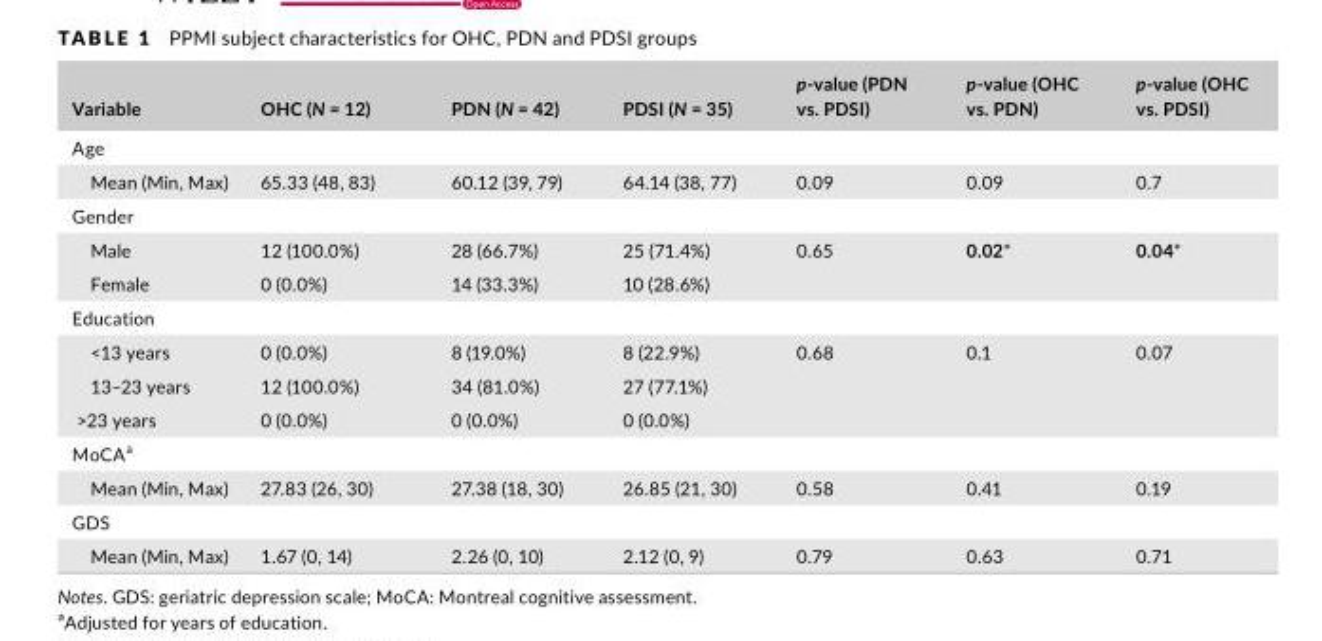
<table><thead><tr><td>Variable</td><td>OHC (N = 12)</td><td>PDN (N = 42)</td><td>PDSI (N = 35)</td><td>p- value (PDN vs. PDSI)</td><td>p- value (OHC vs. PDN)</td><td>p- value (OHC vs. PDSI)</td></tr></thead><tbody><tr><td colspan="7">Age</td></tr><tr><td>Mean (Min, Max)</td><td>65.33 (48, 83)</td><td>60.12 (39, 79)</td><td>64.14 (38, 77)</td><td>0.09</td><td>0.09</td><td>0.7</td></tr><tr><td colspan="7">Gender</td></tr><tr><td>Male</td><td>12 (100.0%)</td><td>28 (66.7%)</td><td>25 (71.4%)</td><td rowspan="2">0.65</td><td rowspan="2">0.02*</td><td rowspan="2">0.04*</td></tr><tr><td>Female</td><td>0 (0.0%)</td><td>14 (33.3%)</td><td>10 (28.6%)</td></tr><tr><td colspan="7">Education</td></tr><tr><td>&lt;13 years</td><td>0 (0.0%)</td><td>8 (19.0%)</td><td>8 (22.9%)</td><td rowspan="3">0.68</td><td rowspan="3">0.1</td><td rowspan="3">0.07</td></tr><tr><td>13–23 years</td><td>12 (100.0%)</td><td>34 (81.0%)</td><td>27 (77.1%)</td></tr><tr><td>&gt;23 years</td><td>0 (0.0%)</td><td>0 (0.0%)</td><td>0 (0.0%)</td></tr><tr><td colspan="7">MoCA<sup>a</sup></td></tr><tr><td>Mean (Min, Max)</td><td>27.83 (26, 30)</td><td>27.38 (18, 30)</td><td>26.85 (21, 30)</td><td>0.58</td><td>0.41</td><td>0.19</td></tr><tr><td colspan="7">GDS</td></tr><tr><td>Mean (Min, Max)</td><td>1.67 (0, 14)</td><td>2.26 (0, 10)</td><td>2.12 (0, 9)</td><td>0.79</td><td>0.63</td><td>0.71</td></tr></tbody></table>